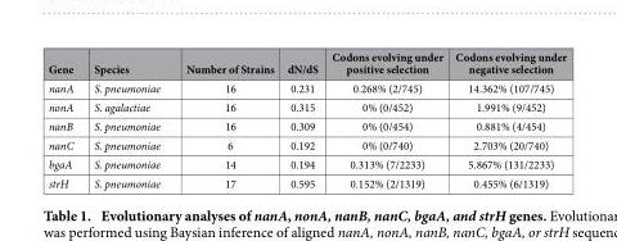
<table><thead><tr><td>Gene</td><td>Species</td><td>Number of Strains</td><td>dN/dS</td><td>Codons evolving under positive selection</td><td>Codons evolving under negative selection</td></tr></thead><tbody><tr><td>nanA</td><td>S. pneumoniae</td><td>16</td><td>0.231</td><td>0.268% (2/745)</td><td>14.362% (107/745)</td></tr><tr><td>nonA</td><td>S. agalactiae</td><td>16</td><td>0.315</td><td>0% (0/452)</td><td>1.991% (9/452)</td></tr><tr><td>nanB</td><td>S. pneumoniae</td><td>16</td><td>0.309</td><td>0% (0/454)</td><td>0.881% (4/454)</td></tr><tr><td>nanC</td><td>S. pneumoniae</td><td>6</td><td>0.192</td><td>0% (0/740)</td><td>2.703% (20/740)</td></tr><tr><td>bgaA</td><td>S. pneumoniae</td><td>14</td><td>0.194</td><td>0.313% (7/2233)</td><td>5.867% (131/2233)</td></tr><tr><td>strH</td><td>S. pneumoniae</td><td>17</td><td>0.595</td><td>0.152% (2/1319)</td><td>0.455% (6/1319)</td></tr></tbody></table>